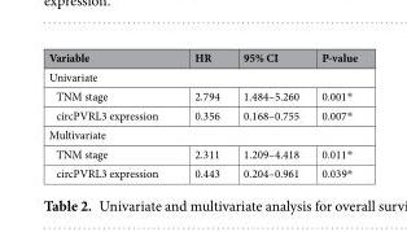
<table><thead><tr><td>Variable</td><td>HR</td><td>95% CI</td><td>P-value</td></tr></thead><tbody><tr><td colspan="4">Univariate</td></tr><tr><td>TNM stage</td><td>2.794</td><td>1.484–5.260</td><td>0.001*</td></tr><tr><td>circPVRL3 expression</td><td>0.356</td><td>0.168–0.755</td><td>0.007*</td></tr><tr><td colspan="4">Multivariate</td></tr><tr><td>TNM stage</td><td>2.311</td><td>1.209–4.418</td><td>0.011*</td></tr><tr><td>circPVRL3 expression</td><td>0.443</td><td>0.204–0.961</td><td>0.039*</td></tr></tbody></table>